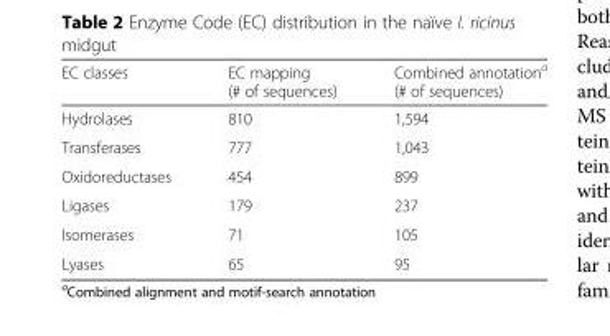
<table><thead><tr><td>EC classes</td><td>EC mapping (# of sequences)</td><td>Combined annotation<sup>a</sup> (# of sequences)</td></tr></thead><tbody><tr><td>Hydrolases</td><td>810</td><td>1,594</td></tr><tr><td>Transferases</td><td>777</td><td>1,043</td></tr><tr><td>Oxidoreductases</td><td>454</td><td>899</td></tr><tr><td>Ligases</td><td>179</td><td>237</td></tr><tr><td>Isomerases</td><td>71</td><td>105</td></tr><tr><td>Lyases</td><td>65</td><td>95</td></tr></tbody></table>